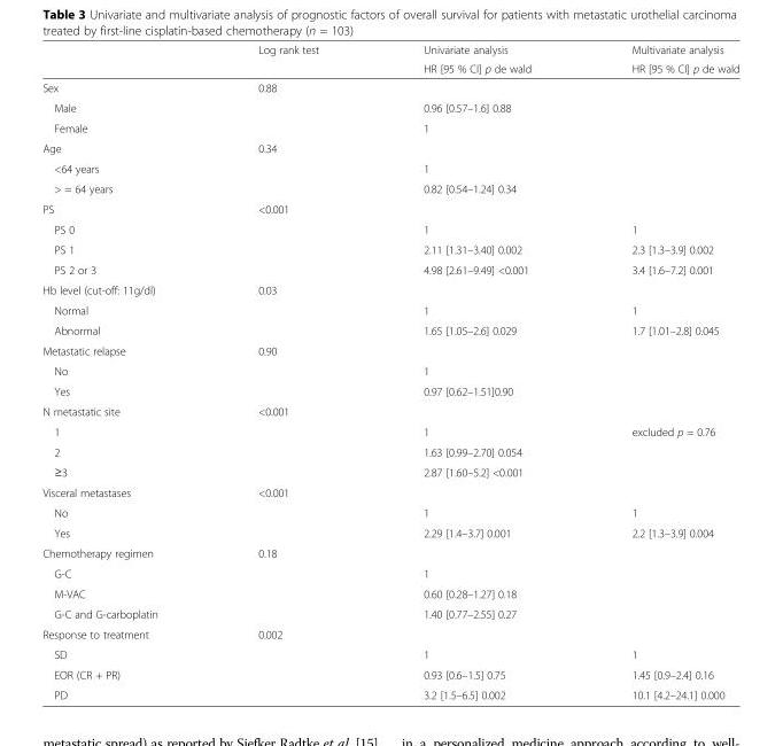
<table><thead><tr><td rowspan="2"></td><td rowspan="2">Log rank test</td><td rowspan="2">Univariate analysis HR [95 % CI] p de wald</td><td rowspan="2">Multivariate analysis HR [95 % CI] p de wald</td></tr><tr></tr></thead><tbody><tr><td>Sex</td><td>0.88</td><td></td><td></td></tr><tr><td>Male</td><td></td><td>0.96 [0.57–1.6] 0.88</td><td></td></tr><tr><td>Female</td><td></td><td>1</td><td></td></tr><tr><td>Age</td><td>0.34</td><td></td><td></td></tr><tr><td>&lt;64 years</td><td></td><td>1</td><td></td></tr><tr><td>&gt; = 64 years</td><td></td><td>0.82 [0.54–1.24] 0.34</td><td></td></tr><tr><td>PS</td><td>&lt;0.001</td><td></td><td></td></tr><tr><td>PS 0</td><td></td><td>1</td><td>1</td></tr><tr><td>PS 1</td><td></td><td>2.11 [1.31–3.40] 0.002</td><td>2.3 [1.3–3.9] 0.002</td></tr><tr><td>PS 2 or 3</td><td></td><td>4.98 [2.61–9.49] &lt;0.001</td><td>3.4 [1.6–7.2] 0.001</td></tr><tr><td>Hb level (cut-off: 11g/dl)</td><td>0.03</td><td></td><td></td></tr><tr><td>Normal</td><td></td><td>1</td><td>1</td></tr><tr><td>Abnormal</td><td></td><td>1.65 [1.05–2.6] 0.029</td><td>1.7 [1.01–2.8] 0.045</td></tr><tr><td>Metastatic relapse</td><td>0.90</td><td></td><td></td></tr><tr><td>No</td><td></td><td>1</td><td></td></tr><tr><td>Yes</td><td></td><td>0.97 [0.62–1.51]0.90</td><td></td></tr><tr><td>N metastatic site</td><td>&lt;0.001</td><td></td><td></td></tr><tr><td>1</td><td></td><td>1</td><td>excluded p = 0.76</td></tr><tr><td>2</td><td></td><td>1.63 [0.99–2.70] 0.054</td><td></td></tr><tr><td>≥3</td><td></td><td>2.87 [1.60–5.2] &lt;0.001</td><td></td></tr><tr><td>Visceral metastases</td><td>&lt;0.001</td><td></td><td></td></tr><tr><td>No</td><td></td><td>1</td><td>1</td></tr><tr><td>Yes</td><td></td><td>2.29 [1.4–3.7] 0.001</td><td>2.2 [1.3–3.9] 0.004</td></tr><tr><td>Chemotherapy regimen</td><td>0.18</td><td></td><td></td></tr><tr><td>G-C</td><td></td><td>1</td><td></td></tr><tr><td>M-VAC</td><td></td><td>0.60 [0.28–1.27] 0.18</td><td></td></tr><tr><td>G-C and G-carboplatin</td><td></td><td>1.40 [0.77–2.55] 0.27</td><td></td></tr><tr><td>Response to treatment</td><td>0.002</td><td></td><td></td></tr><tr><td>SD</td><td></td><td>1</td><td>1</td></tr><tr><td>EOR (CR + PR)</td><td></td><td>0.93 [0.6–1.5] 0.75</td><td>1.45 [0.9–2.4] 0.16</td></tr><tr><td>PD</td><td></td><td>3.2 [1.5–6.5] 0.002</td><td>10.1 [4.2–24.1] 0.000</td></tr></tbody></table>